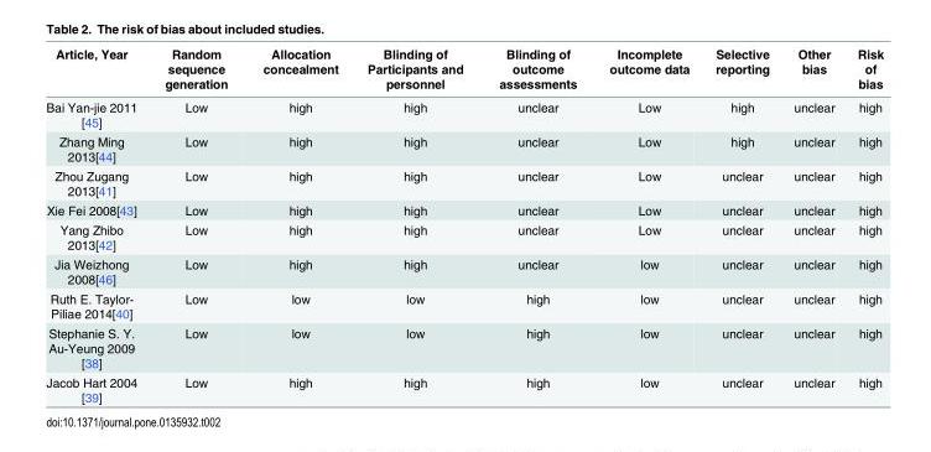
<table><thead><tr><td>Article, Year</td><td>Random sequence generation</td><td>Allocation concealment</td><td>Blinding of Participants and personnel</td><td>Blinding of outcome assessments</td><td>Incomplete outcome data</td><td>Selective reporting</td><td>Other bias</td><td>Risk of bias</td></tr></thead><tbody><tr><td>Bai Yan-jie 2011 [45]</td><td>Low</td><td>high</td><td>high</td><td>unclear</td><td>Low</td><td>high</td><td>unclear</td><td>high</td></tr><tr><td>Zhang Ming 2013[44]</td><td>Low</td><td>high</td><td>high</td><td>unclear</td><td>Low</td><td>high</td><td>unclear</td><td>high</td></tr><tr><td>Zhou Zugang 2013[41]</td><td>Low</td><td>high</td><td>high</td><td>unclear</td><td>Low</td><td>unclear</td><td>unclear</td><td>high</td></tr><tr><td>Xie Fei 2008[43]</td><td>Low</td><td>high</td><td>high</td><td>unclear</td><td>Low</td><td>unclear</td><td>unclear</td><td>high</td></tr><tr><td>Yang Zhibo 2013[42]</td><td>Low</td><td>high</td><td>high</td><td>unclear</td><td>Low</td><td>unclear</td><td>unclear</td><td>high</td></tr><tr><td>Jia Weizhong 2008[46]</td><td>Low</td><td>high</td><td>high</td><td>unclear</td><td>low</td><td>unclear</td><td>unclear</td><td>high</td></tr><tr><td>Ruth E. Taylor- Piliae 2014[40]</td><td>Low</td><td>low</td><td>low</td><td>high</td><td>low</td><td>unclear</td><td>unclear</td><td>high</td></tr><tr><td>Stephanie S. Y. Au-Yeung 2009 [38]</td><td>Low</td><td>low</td><td>low</td><td>high</td><td>low</td><td>unclear</td><td>unclear</td><td>high</td></tr><tr><td>Jacob Hart 2004 [39]</td><td>Low</td><td>high</td><td>high</td><td>high</td><td>low</td><td>unclear</td><td>unclear</td><td>high</td></tr></tbody></table>